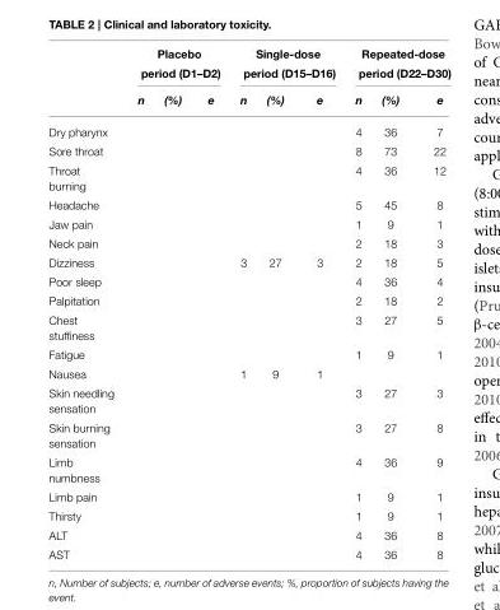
<table><thead><tr><td rowspan="2"></td><td colspan="3">Placebo period (D1–D2)</td><td colspan="3">Single-dose period (D15–D16)</td><td colspan="3">Repeated-dose period (D22–D30)</td></tr><tr><td>n</td><td>(%)</td><td>e</td><td>n</td><td>(%)</td><td>e</td><td>n</td><td>(%)</td><td>e</td></tr></thead><tbody><tr><td>Dry pharynx</td><td></td><td></td><td></td><td></td><td></td><td></td><td>4</td><td>36</td><td>7</td></tr><tr><td>Sore throat</td><td></td><td></td><td></td><td></td><td></td><td></td><td>8</td><td>73</td><td>22</td></tr><tr><td>Throat burning</td><td></td><td></td><td></td><td></td><td></td><td></td><td>4</td><td>36</td><td>12</td></tr><tr><td>Headache</td><td></td><td></td><td></td><td></td><td></td><td></td><td>5</td><td>45</td><td>8</td></tr><tr><td>Jaw pain</td><td></td><td></td><td></td><td></td><td></td><td></td><td>1</td><td>9</td><td>1</td></tr><tr><td>Neck pain</td><td></td><td></td><td></td><td></td><td></td><td></td><td>2</td><td>18</td><td>3</td></tr><tr><td>Dizziness</td><td></td><td></td><td></td><td>3</td><td>27</td><td>3</td><td>2</td><td>18</td><td>5</td></tr><tr><td>Poor sleep</td><td></td><td></td><td></td><td></td><td></td><td></td><td>4</td><td>36</td><td>4</td></tr><tr><td>Palpitation</td><td></td><td></td><td></td><td></td><td></td><td></td><td>2</td><td>18</td><td>2</td></tr><tr><td>Chest stuffiness</td><td></td><td></td><td></td><td></td><td></td><td></td><td>3</td><td>27</td><td>5</td></tr><tr><td>Fatigue</td><td></td><td></td><td></td><td></td><td></td><td></td><td>1</td><td>9</td><td>1</td></tr><tr><td>Nausea</td><td></td><td></td><td></td><td>1</td><td>9</td><td>1</td><td></td><td></td><td></td></tr><tr><td>Skin needling sensation</td><td></td><td></td><td></td><td></td><td></td><td></td><td>3</td><td>27</td><td>3</td></tr><tr><td>Skin burning sensation</td><td></td><td></td><td></td><td></td><td></td><td></td><td>3</td><td>27</td><td>8</td></tr><tr><td>Limb numbness</td><td></td><td></td><td></td><td></td><td></td><td></td><td>4</td><td>36</td><td>9</td></tr><tr><td>Limb pain</td><td></td><td></td><td></td><td></td><td></td><td></td><td>1</td><td>9</td><td>1</td></tr><tr><td>Thirsty</td><td></td><td></td><td></td><td></td><td></td><td></td><td>1</td><td>9</td><td>1</td></tr><tr><td>ALT</td><td></td><td></td><td></td><td></td><td></td><td></td><td>4</td><td>36</td><td>8</td></tr><tr><td>AST</td><td></td><td></td><td></td><td></td><td></td><td></td><td>4</td><td>36</td><td>8</td></tr></tbody></table>